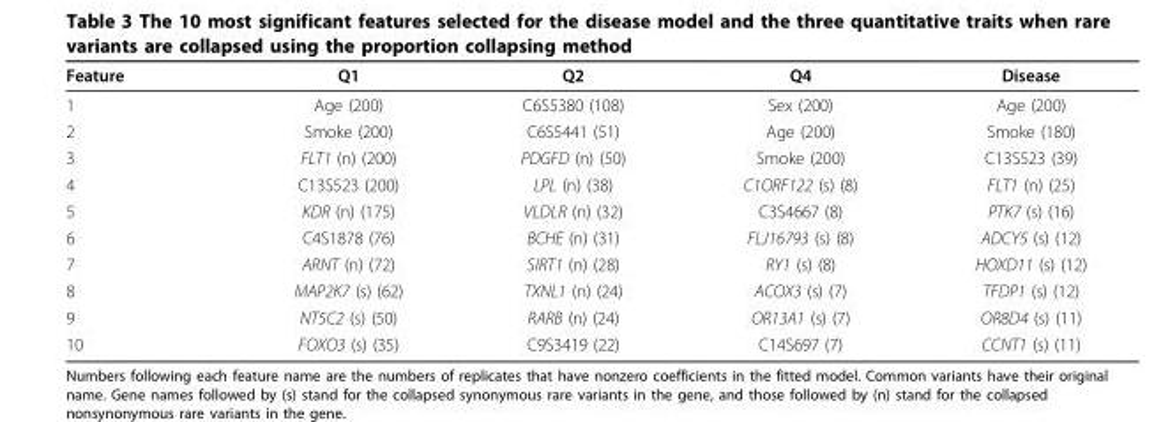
<table><thead><tr><td>Feature</td><td>Q1</td><td>Q2</td><td>Q4</td><td>Disease</td></tr></thead><tbody><tr><td>1</td><td>Age (200)</td><td>C6S5380 (108)</td><td>Sex (200)</td><td>Age (200)</td></tr><tr><td>2</td><td>Smoke (200)</td><td>C6S5441 (51)</td><td>Age (200)</td><td>Smoke (180)</td></tr><tr><td>3</td><td>FLT1 (n) (200)</td><td>PDGFD (n) (50)</td><td>Smoke (200)</td><td>C13S523 (39)</td></tr><tr><td>4</td><td>C13S523 (200)</td><td>LPL (n) (38)</td><td>C1ORF122 (s) (8)</td><td>FLT1 (n) (25)</td></tr><tr><td>5</td><td>KDR (n) (175)</td><td>VLDLR (n) (32)</td><td>C3S4667 (8)</td><td>PTK7 (s) (16)</td></tr><tr><td>6</td><td>C4S1878 (76)</td><td>BCHE (n) (31)</td><td>FLJ16793 (s) (8)</td><td>ADCY5 (s) (12)</td></tr><tr><td>7</td><td>ARNT (n) (72)</td><td>SIRT1 (n) (28)</td><td>RY1 (s) (8)</td><td>HOXD11 (s) (12)</td></tr><tr><td>8</td><td>MAP2K7 (s) (62)</td><td>TXNL1 (n) (24)</td><td>ACOX3 (s) (7)</td><td>TFDP1 (s) (12)</td></tr><tr><td>9</td><td>NT5C2 (s) (50)</td><td>RARB (n) (24)</td><td>OR13A1 (s) (7)</td><td>OR8D4 (s) (11)</td></tr><tr><td>10</td><td>FOXO3 (s) (35)</td><td>C9S3419 (22)</td><td>C14S697 (7)</td><td>CCNT1 (s) (11)</td></tr></tbody></table>